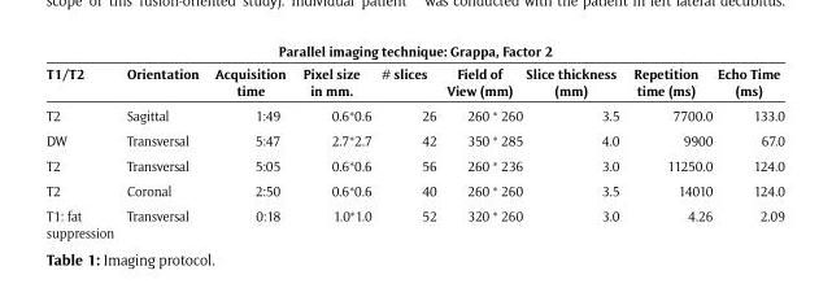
<table><thead><tr><td colspan="9">Parallel imaging technique: Grappa, Factor 2</td></tr><tr><td>T1/T2</td><td>Orientation</td><td>Acquisition time</td><td>Pixel size in mm.</td><td># slices</td><td>Field of View (mm)</td><td>Slice thickness (mm)</td><td>Repetition time (ms)</td><td>Echo Time (ms)</td></tr></thead><tbody><tr><td>T2</td><td>Sagittal</td><td>1:49</td><td>0.6*0.6</td><td>26</td><td>260 * 260</td><td>3.5</td><td>7700.0</td><td>133.0</td></tr><tr><td>DW</td><td>Transversal</td><td>5:47</td><td>2.7*2.7</td><td>42</td><td>350 * 285</td><td>4.0</td><td>9900</td><td>67.0</td></tr><tr><td>T2</td><td>Transversal</td><td>5:05</td><td>0.6*0.6</td><td>56</td><td>260 * 236</td><td>3.0</td><td>11250.0</td><td>124.0</td></tr><tr><td>T2</td><td>Coronal</td><td>2:50</td><td>0.6*0.6</td><td>40</td><td>260 * 260</td><td>3.5</td><td>14010</td><td>124.0</td></tr><tr><td>T1: fat suppression</td><td>Transversal</td><td>0:18</td><td>1.0*1.0</td><td>52</td><td>320 * 260</td><td>3.0</td><td>4.26</td><td>2.09</td></tr></tbody></table>